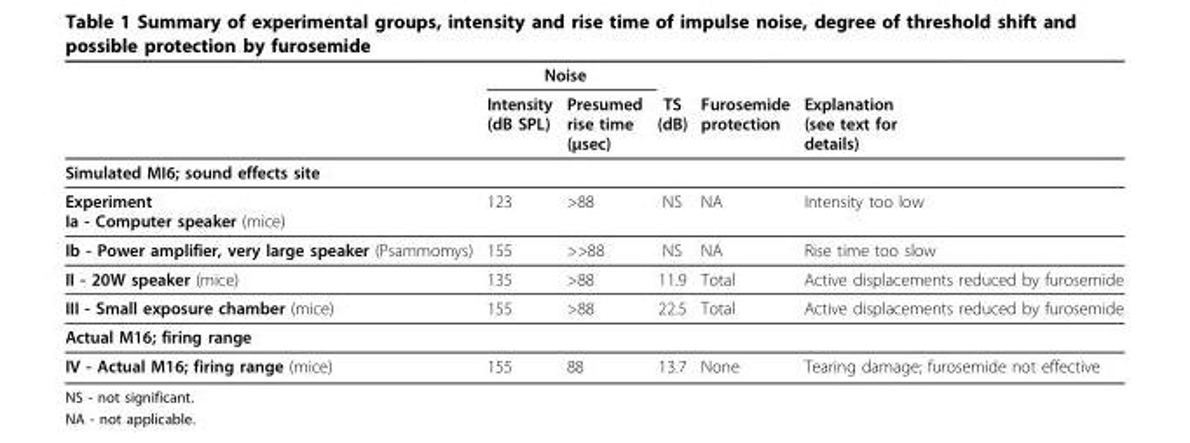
<table><thead><tr><td rowspan="2"></td><td colspan="2">Noise</td><td rowspan="2">TS (dB)</td><td rowspan="2">Furosemide protection</td><td rowspan="2">Explanation (see text for details)</td></tr><tr><td>Intensity (dB SPL)</td><td>Presumed rise time (μsec)</td></tr></thead><tbody><tr><td colspan="6">Simulated MI6; sound effects site</td></tr><tr><td>Experiment Ia - Computer speaker (mice)</td><td>123</td><td>&gt;88</td><td>NS</td><td>NA</td><td>Intensity too low</td></tr><tr><td>Ib - Power amplifier, very large speaker (Psammomys)</td><td>155</td><td>&gt;&gt;88</td><td>NS</td><td>NA</td><td>Rise time too slow</td></tr><tr><td>II - 20W speaker (mice)</td><td>135</td><td>&gt;88</td><td>11.9</td><td>Total</td><td>Active displacements reduced by furosemide</td></tr><tr><td>III - Small exposure chamber (mice)</td><td>155</td><td>&gt;88</td><td>22.5</td><td>Total</td><td>Active displacements reduced by furosemide</td></tr><tr><td colspan="6">Actual M16; firing range</td></tr><tr><td>IV - Actual M16; firing range (mice)</td><td>155</td><td>88</td><td>13.7</td><td>None</td><td>Tearing damage; furosemide not effective</td></tr></tbody></table>